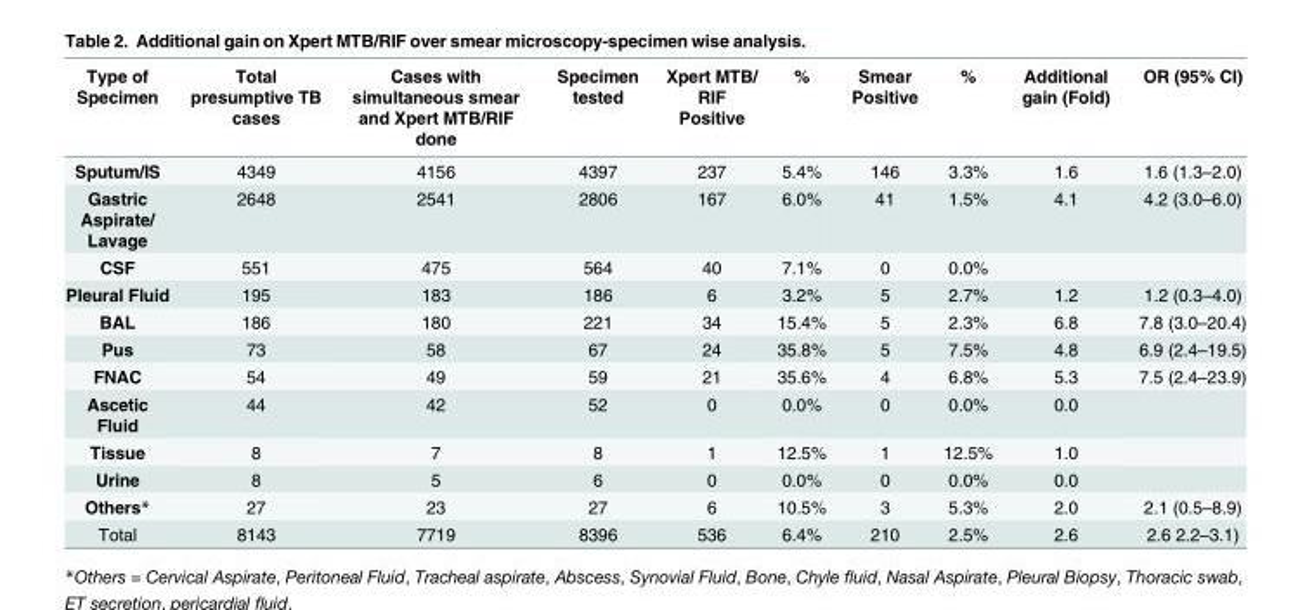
<table><thead><tr><td>Type of Specimen</td><td>Total presumptive TB cases</td><td>Cases with simultaneous smear and Xpert MTB/RIF done</td><td>Specimen tested</td><td>Xpert MTB/ RIF Positive</td><td>%</td><td>Smear Positive</td><td>%</td><td>Additional gain (Fold)</td><td>OR (95% CI)</td></tr></thead><tbody><tr><td>Sputum/IS</td><td>4349</td><td>4156</td><td>4397</td><td>237</td><td>5.4%</td><td>146</td><td>3.3%</td><td>1.6</td><td>1.6 (1.3–2.0)</td></tr><tr><td>Gastric Aspirate/ Lavage</td><td>2648</td><td>2541</td><td>2806</td><td>167</td><td>6.0%</td><td>41</td><td>1.5%</td><td>4.1</td><td>4.2 (3.0–6.0)</td></tr><tr><td>CSF</td><td>551</td><td>475</td><td>564</td><td>40</td><td>7.1%</td><td>0</td><td>0.0%</td><td></td><td></td></tr><tr><td>Pleural Fluid</td><td>195</td><td>183</td><td>186</td><td>6</td><td>3.2%</td><td>5</td><td>2.7%</td><td>1.2</td><td>1.2 (0.3–4.0)</td></tr><tr><td>BAL</td><td>186</td><td>180</td><td>221</td><td>34</td><td>15.4%</td><td>5</td><td>2.3%</td><td>6.8</td><td>7.8 (3.0–20.4)</td></tr><tr><td>Pus</td><td>73</td><td>58</td><td>67</td><td>24</td><td>35.8%</td><td>5</td><td>7.5%</td><td>4.8</td><td>6.9 (2.4–19.5)</td></tr><tr><td>FNAC</td><td>54</td><td>49</td><td>59</td><td>21</td><td>35.6%</td><td>4</td><td>6.8%</td><td>5.3</td><td>7.5 (2.4–23.9)</td></tr><tr><td>Ascetic Fluid</td><td>44</td><td>42</td><td>52</td><td>0</td><td>0.0%</td><td>0</td><td>0.0%</td><td>0.0</td><td></td></tr><tr><td>Tissue</td><td>8</td><td>7</td><td>8</td><td>1</td><td>12.5%</td><td>1</td><td>12.5%</td><td>1.0</td><td></td></tr><tr><td>Urine</td><td>8</td><td>5</td><td>6</td><td>0</td><td>0.0%</td><td>0</td><td>0.0%</td><td>0.0</td><td></td></tr><tr><td>Others*</td><td>27</td><td>23</td><td>27</td><td>6</td><td>10.5%</td><td>3</td><td>5.3%</td><td>2.0</td><td>2.1 (0.5–8.9)</td></tr><tr><td>Total</td><td>8143</td><td>7719</td><td>8396</td><td>536</td><td>6.4%</td><td>210</td><td>2.5%</td><td>2.6</td><td>2.6 2.2–3.1)</td></tr></tbody></table>